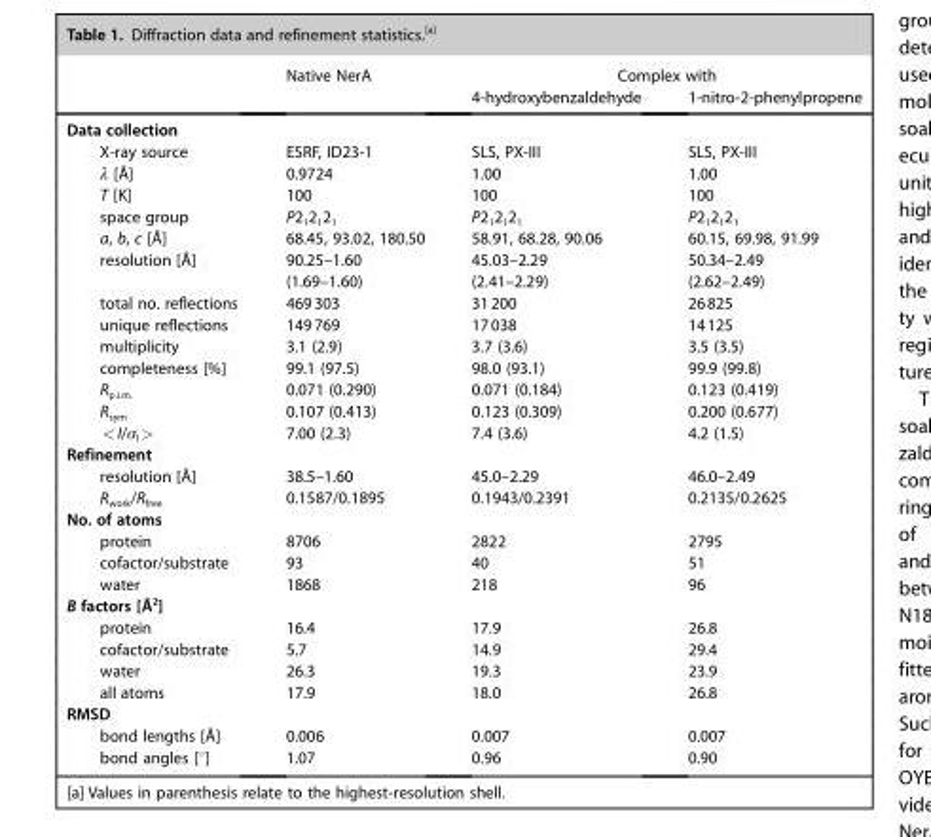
<table><thead><tr><td rowspan="2"></td><td rowspan="2">Native NerA</td><td colspan="2">Complex with</td></tr><tr><td>4-hydroxybenzaldehyde</td><td>1-nitro-2-phenylpropene</td></tr></thead><tbody><tr><td colspan="4">Data collection</td></tr><tr><td>X-ray source</td><td>ESRF, ID23-1</td><td>SLS, PX-III</td><td>SLS, PX-III</td></tr><tr><td>λ [Å]</td><td>0.9724</td><td>1.00</td><td>1.00</td></tr><tr><td>T [K]</td><td>100</td><td>100</td><td>100</td></tr><tr><td>space group</td><td>P2<sub>1</sub>2<sub>1</sub>2<sub>1</sub></td><td>P2<sub>1</sub>2<sub>1</sub>2<sub>1</sub></td><td>P2<sub>1</sub>2<sub>1</sub>2<sub>1</sub></td></tr><tr><td>a, b, c [Å]</td><td>68.45, 93.02, 180.50</td><td>58.91, 68.28, 90.06</td><td>60.15, 69.98, 91.99</td></tr><tr><td rowspan="2">resolution [Å]</td><td>90.25–1.60</td><td>45.03–2.29</td><td>50.34–2.49</td></tr><tr><td>(1.69–1.60)</td><td>(2.41–2.29)</td><td>(2.62–2.49)</td></tr><tr><td>total no. reflections</td><td>469303</td><td>31200</td><td>26825</td></tr><tr><td>unique reflections</td><td>149769</td><td>17038</td><td>14125</td></tr><tr><td>multiplicity</td><td>3.1 (2.9)</td><td>3.7 (3.6)</td><td>3.5 (3.5)</td></tr><tr><td>completeness [%]</td><td>99.1 (97.5)</td><td>98.0 (93.1)</td><td>99.9 (99.8)</td></tr><tr><td>R<sub>p.i.m.</sub></td><td>0.071 (0.290)</td><td>0.071 (0.184)</td><td>0.123 (0.419)</td></tr><tr><td>R<sub>sym</sub></td><td>0.107 (0.413)</td><td>0.123 (0.309)</td><td>0.200 (0.677)</td></tr><tr><td>&lt;I/σ<sub>I</sub>&gt;</td><td>7.00 (2.3)</td><td>7.4 (3.6)</td><td>4.2 (1.5)</td></tr><tr><td colspan="4">Refinement</td></tr><tr><td>resolution [Å]</td><td>38.5–1.60</td><td>45.0–2.29</td><td>46.0–2.49</td></tr><tr><td>R<sub>work</sub>/R<sub>free</sub></td><td>0.1587/0.1895</td><td>0.1943/0.2391</td><td>0.2135/0.2625</td></tr><tr><td colspan="4">No. of atoms</td></tr><tr><td>protein</td><td>8706</td><td>2822</td><td>2795</td></tr><tr><td>cofactor/substrate</td><td>93</td><td>40</td><td>51</td></tr><tr><td>water</td><td>1868</td><td>218</td><td>96</td></tr><tr><td colspan="4">B factors [Å<sup>2</sup>]</td></tr><tr><td>protein</td><td>16.4</td><td>17.9</td><td>26.8</td></tr><tr><td>cofactor/substrate</td><td>5.7</td><td>14.9</td><td>29.4</td></tr><tr><td>water</td><td>26.3</td><td>19.3</td><td>23.9</td></tr><tr><td>all atoms</td><td>17.9</td><td>18.0</td><td>26.8</td></tr><tr><td colspan="4">RMSD</td></tr><tr><td>bond lengths [Å]</td><td>0.006</td><td>0.007</td><td>0.007</td></tr><tr><td>bond angles [°]</td><td>1.07</td><td>0.96</td><td>0.90</td></tr></tbody></table>